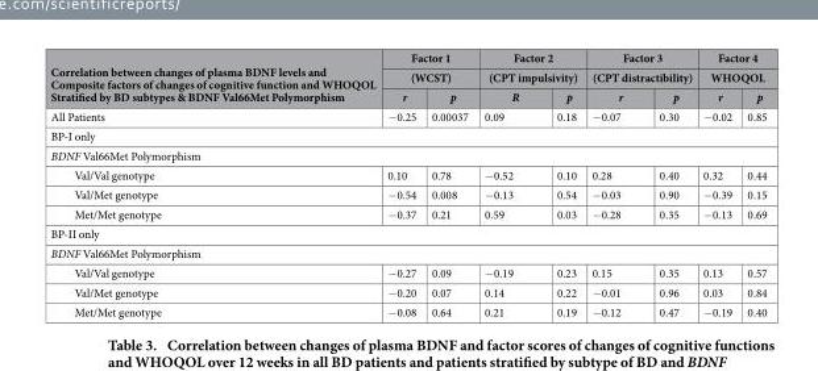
<table><thead><tr><td rowspan="3">Correlation between changes of plasma BDNF levels and Composite factors of changes of cognitive function and WHOQOL Stratified by BD subtypes &amp; BDNF Val66Met Polymorphism</td><td rowspan="2" colspan="2">Factor 1 (WCST)</td><td rowspan="2" colspan="2">Factor 2 (CPT impulsivity)</td><td rowspan="2" colspan="2">Factor 3 (CPT distractibility)</td><td rowspan="2" colspan="2">Factor 4 WHOQOL</td></tr><tr></tr><tr><td>r</td><td>p</td><td>R</td><td>p</td><td>r</td><td>p</td><td>r</td><td>p</td></tr></thead><tbody><tr><td>All Patients</td><td>− 0.25</td><td>0.00037</td><td>0.09</td><td>0.18</td><td>− 0.07</td><td>0.30</td><td>− 0.02</td><td>0.85</td></tr><tr><td colspan="9">BP-I only</td></tr><tr><td colspan="9">BDNF Val66Met Polymorphism</td></tr><tr><td>Val/Val genotype</td><td>0.10</td><td>0.78</td><td>− 0.52</td><td>0.10</td><td>0.28</td><td>0.40</td><td>0.32</td><td>0.44</td></tr><tr><td>Val/Met genotype</td><td>− 0.54</td><td>0.008</td><td>− 0.13</td><td>0.54</td><td>− 0.03</td><td>0.90</td><td>− 0.39</td><td>0.15</td></tr><tr><td>Met/Met genotype</td><td>− 0.37</td><td>0.21</td><td>0.59</td><td>0.03</td><td>− 0.28</td><td>0.35</td><td>− 0.13</td><td>0.69</td></tr><tr><td colspan="9">BP-II only</td></tr><tr><td colspan="9">BDNF Val66Met Polymorphism</td></tr><tr><td>Val/Val genotype</td><td>− 0.27</td><td>0.09</td><td>− 0.19</td><td>0.23</td><td>0.15</td><td>0.35</td><td>0.13</td><td>0.57</td></tr><tr><td>Val/Met genotype</td><td>− 0.20</td><td>0.07</td><td>0.14</td><td>0.22</td><td>− 0.01</td><td>0.96</td><td>0.03</td><td>0.84</td></tr><tr><td>Met/Met genotype</td><td>− 0.08</td><td>0.64</td><td>0.21</td><td>0.19</td><td>− 0.12</td><td>0.47</td><td>− 0.19</td><td>0.40</td></tr></tbody></table>